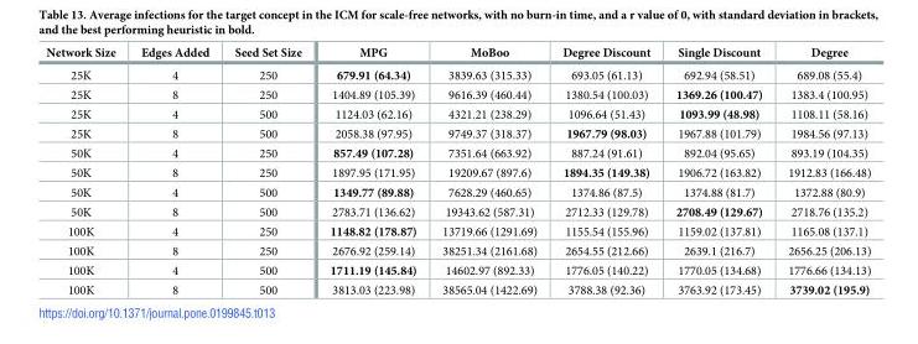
<table><thead><tr><td>Network Size</td><td>Edges Added</td><td>Seed Set Size</td><td>MPG</td><td>MoBoo</td><td>Degree Discount</td><td>Single Discount</td><td>Degree</td></tr></thead><tbody><tr><td>25K</td><td>4</td><td>250</td><td>679.91 (64.34)</td><td>3839.63 (315.33)</td><td>693.05 (61.13)</td><td>692.94 (58.51)</td><td>689.08 (55.4)</td></tr><tr><td>25K</td><td>8</td><td>250</td><td>1404.89 (105.39)</td><td>9616.39 (460.44)</td><td>1380.54 (100.03)</td><td>1369.26 (100.47)</td><td>1383.4 (100.95)</td></tr><tr><td>25K</td><td>4</td><td>500</td><td>1124.03 (62.16)</td><td>4321.21 (238.29)</td><td>1096.64 (51.43)</td><td>1093.99 (48.98)</td><td>1108.11 (58.16)</td></tr><tr><td>25K</td><td>8</td><td>500</td><td>2058.38 (97.95)</td><td>9749.37 (318.37)</td><td>1967.79 (98.03)</td><td>1967.88 (101.79)</td><td>1984.56 (97.13)</td></tr><tr><td>50K</td><td>4</td><td>250</td><td>857.49 (107.28)</td><td>7351.64 (663.92)</td><td>887.24 (91.61)</td><td>892.04 (95.65)</td><td>893.19 (104.35)</td></tr><tr><td>50K</td><td>8</td><td>250</td><td>1897.95 (171.95)</td><td>19209.67 (897.6)</td><td>1894.35 (149.38)</td><td>1906.72 (163.82)</td><td>1912.83 (166.48)</td></tr><tr><td>50K</td><td>4</td><td>500</td><td>1349.77 (89.88)</td><td>7628.29 (460.65)</td><td>1374.86 (87.5)</td><td>1374.88 (81.7)</td><td>1372.88 (80.9)</td></tr><tr><td>50K</td><td>8</td><td>500</td><td>2783.71 (136.62)</td><td>19343.62 (587.31)</td><td>2712.33 (129.78)</td><td>2708.49 (129.67)</td><td>2718.76 (135.2)</td></tr><tr><td>100K</td><td>4</td><td>250</td><td>1148.82 (178.87)</td><td>13719.66 (1291.69)</td><td>1155.54 (155.96)</td><td>1159.02 (137.81)</td><td>1165.08 (137.1)</td></tr><tr><td>100K</td><td>8</td><td>250</td><td>2676.92 (259.14)</td><td>38251.34 (2161.68)</td><td>2654.55 (212.66)</td><td>2639.1 (216.7)</td><td>2656.25 (206.13)</td></tr><tr><td>100K</td><td>4</td><td>500</td><td>1711.19 (145.84)</td><td>14602.97 (892.33)</td><td>1776.05 (140.22)</td><td>1770.05 (134.68)</td><td>1776.66 (134.13)</td></tr><tr><td>100K</td><td>8</td><td>500</td><td>3813.03 (223.98)</td><td>38565.04 (1422.69)</td><td>3788.38 (92.36)</td><td>3763.92 (173.45)</td><td>3739.02 (195.9)</td></tr></tbody></table>